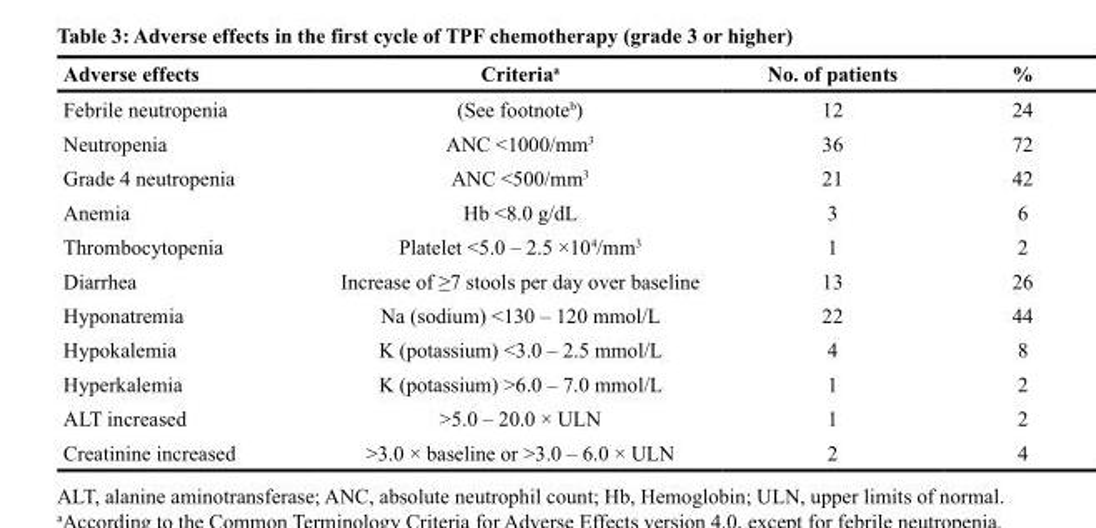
<table><thead><tr><td>Adverse effects</td><td>Criteria<sup>a</sup></td><td>No. of patients</td><td>%</td></tr></thead><tbody><tr><td>Febrile neutropenia</td><td>(See footnote<sup>b</sup>)</td><td>12</td><td>24</td></tr><tr><td>Neutropenia</td><td>ANC &lt;1000/mm<sup>3</sup></td><td>36</td><td>72</td></tr><tr><td>Grade 4 neutropenia</td><td>ANC &lt;500/mm<sup>3</sup></td><td>21</td><td>42</td></tr><tr><td>Anemia</td><td>Hb &lt;8.0 g/dL</td><td>3</td><td>6</td></tr><tr><td>Thrombocytopenia</td><td>Platelet &lt;5.0 – 2.5 ×10<sup>4</sup>/mm<sup>3</sup></td><td>1</td><td>2</td></tr><tr><td>Diarrhea</td><td>Increase of ≥7 stools per day over baseline</td><td>13</td><td>26</td></tr><tr><td>Hyponatremia</td><td>Na (sodium) &lt;130 – 120 mmol/L</td><td>22</td><td>44</td></tr><tr><td>Hypokalemia</td><td>K (potassium) &lt;3.0 – 2.5 mmol/L</td><td>4</td><td>8</td></tr><tr><td>Hyperkalemia</td><td>K (potassium) &gt;6.0 – 7.0 mmol/L</td><td>1</td><td>2</td></tr><tr><td>ALT increased</td><td>&gt;5.0 – 20.0 × ULN</td><td>1</td><td>2</td></tr><tr><td>Creatinine increased</td><td>&gt;3.0 × baseline or &gt;3.0 – 6.0 × ULN</td><td>2</td><td>4</td></tr></tbody></table>